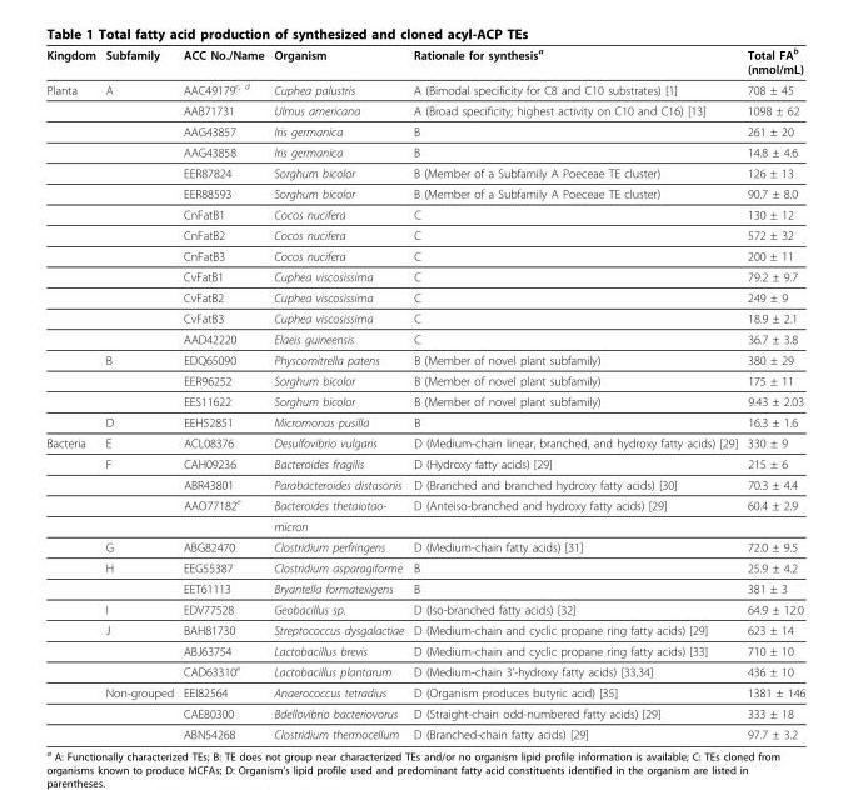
<table><thead><tr><td>Kingdom</td><td>Subfamily</td><td>ACC No./Name</td><td>Organism</td><td>Rationale for synthesis<sup>a</sup></td><td>Total FA<sup>b</sup> (nmol/mL)</td></tr></thead><tbody><tr><td rowspan="17">Planta</td><td>A</td><td>AAC49179<sup>c, d</sup></td><td>Cuphea palustris</td><td>A (Bimodal specificity for C8 and C10 substrates) [1]</td><td>708 ± 45</td></tr><tr><td></td><td>AAB71731</td><td>Ulmus americana</td><td>A (Broad specificity; highest activity on C10 and C16) [13]</td><td>1098 ± 62</td></tr><tr><td></td><td>AAG43857</td><td>Iris germanica</td><td>B</td><td>261 ± 20</td></tr><tr><td></td><td>AAG43858</td><td>Iris germanica</td><td>B</td><td>14.8 ± 4.6</td></tr><tr><td></td><td>EER87824</td><td>Sorghum bicolor</td><td>B (Member of a Subfamily A Poeceae TE cluster)</td><td>126 ± 13</td></tr><tr><td></td><td>EER88593</td><td>Sorghum bicolor</td><td>B (Member of a Subfamily A Poeceae TE cluster)</td><td>90.7 ± 8.0</td></tr><tr><td></td><td>CnFatB1</td><td>Cocos nucifera</td><td>C</td><td>130 ± 12</td></tr><tr><td></td><td>CnFatB2</td><td>Cocos nucifera</td><td>C</td><td>572 ± 32</td></tr><tr><td></td><td>CnFatB3</td><td>Cocos nucifera</td><td>C</td><td>200 ± 11</td></tr><tr><td></td><td>CvFatB1</td><td>Cuphea viscosissima</td><td>C</td><td>79.2 ± 9.7</td></tr><tr><td></td><td>CvFatB2</td><td>Cuphea viscosissima</td><td>C</td><td>249 ± 9</td></tr><tr><td></td><td>CvFatB3</td><td>Cuphea viscosissima</td><td>C</td><td>18.9 ± 2.1</td></tr><tr><td></td><td>AAD42220</td><td>Elaeis guineensis</td><td>C</td><td>36.7 ± 3.8</td></tr><tr><td>B</td><td>EDQ65090</td><td>Physcomitrella patens</td><td>B (Member of novel plant subfamily)</td><td>380 ± 29</td></tr><tr><td></td><td>EER96252</td><td>Sorghum bicolor</td><td>B (Member of novel plant subfamily)</td><td>175 ± 11</td></tr><tr><td></td><td>EES11622</td><td>Sorghum bicolor</td><td>B (Member of novel plant subfamily)</td><td>9.43 ± 2.03</td></tr><tr><td>D</td><td>EEH52851</td><td>Micromonas pusilla</td><td>B</td><td>16.3 ± 1.6</td></tr><tr><td rowspan="15">Bacteria</td><td>E</td><td>ACL08376</td><td>Desulfovibrio vulgaris</td><td>D (Medium-chain linear, branched, and hydroxy fatty acids) [29]</td><td>330 ± 9</td></tr><tr><td>F</td><td>CAH09236</td><td>Bacteroides fragilis</td><td>D (Hydroxy fatty acids) [29]</td><td>215 ± 6</td></tr><tr><td></td><td>ABR43801</td><td>Parabacteroides distasonis</td><td>D (Branched and branched hydroxy fatty acids) [30]</td><td>70.3 ± 4.4</td></tr><tr><td></td><td>AAO77182<sup>e</sup></td><td>Bacteroides thetaiotao-</td><td>D (Anteiso-branched and hydroxy fatty acids) [29]</td><td>60.4 ± 2.9</td></tr><tr><td></td><td></td><td>micron</td><td></td><td></td></tr><tr><td>G</td><td>ABG82470</td><td>Clostridium perfringens</td><td>D (Medium-chain fatty acids) [31]</td><td>72.0 ± 9.5</td></tr><tr><td>H</td><td>EEG55387</td><td>Clostridium asparagiforme</td><td>B</td><td>25.9 ± 4.2</td></tr><tr><td></td><td>EET61113</td><td>Bryantella formatexigens</td><td>B</td><td>381 ± 3</td></tr><tr><td>I</td><td>EDV77528</td><td>Geobacillus sp.</td><td>D (Iso-branched fatty acids) [32]</td><td>64.9 ± 12.0</td></tr><tr><td>J</td><td>BAH81730</td><td>Streptococcus dysgalactiae</td><td>D (Medium-chain and cyclic propane ring fatty acids) [29]</td><td>623 ± 14</td></tr><tr><td></td><td>ABJ63754</td><td>Lactobacillus brevis</td><td>D (Medium-chain and cyclic propane ring fatty acids) [33]</td><td>710 ± 10</td></tr><tr><td></td><td>CAD63310<sup>e</sup></td><td>Lactobacillus plantarum</td><td>D (Medium-chain 3’-hydroxy fatty acids) [33,34]</td><td>436 ± 10</td></tr><tr><td>Non-grouped</td><td>EEI82564</td><td>Anaerococcus tetradius</td><td>D (Organism produces butyric acid) [35]</td><td>1381 ± 146</td></tr><tr><td></td><td>CAE80300</td><td>Bdellovibrio bacteriovorus</td><td>D (Straight-chain odd-numbered fatty acids) [29]</td><td>333 ± 18</td></tr><tr><td></td><td>ABN54268</td><td>Clostridium thermocellum</td><td>D (Branched-chain fatty acids) [29]</td><td>97.7 ± 3.2</td></tr></tbody></table>